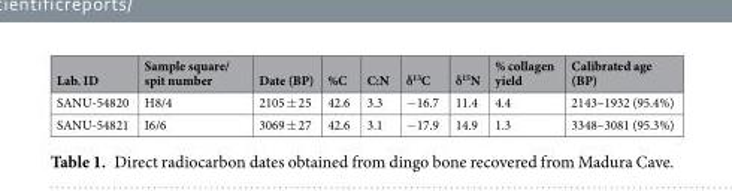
<table><thead><tr><td>Lab. ID</td><td>Sample square/ spit number</td><td>Date (BP)</td><td>%C</td><td>C:N</td><td>δ<sup>13</sup>C</td><td>δ<sup>15</sup>N</td><td>% collagen yield</td><td>Calibrated age (BP)</td></tr></thead><tbody><tr><td>SANU-54820</td><td>H8/4</td><td>2105 ± 25</td><td>42.6</td><td>3.3</td><td>−16.7</td><td>11.4</td><td>4.4</td><td>2143–1932 (95.4%)</td></tr><tr><td>SANU-54821</td><td>I6/6</td><td>3069 ± 27</td><td>42.6</td><td>3.1</td><td>−17.9</td><td>14.9</td><td>1.3</td><td>3348–3081 (95.3%)</td></tr></tbody></table>